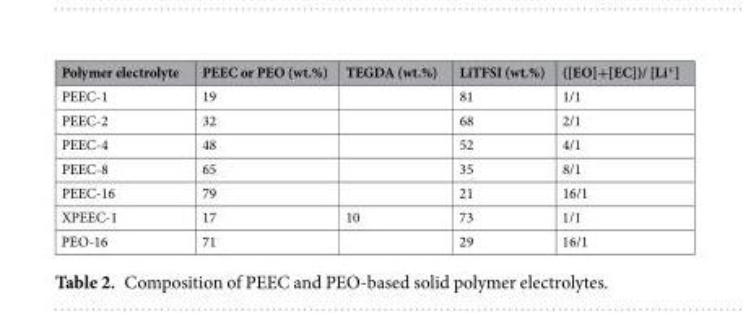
<table><thead><tr><td>Polymer electrolyte</td><td>PEEC or PEO (wt.%)</td><td>TEGDA (wt.%)</td><td>LiTFSI (wt.%)</td><td>([EO]+[EC])/ [Li<sup>+</sup>]</td></tr></thead><tbody><tr><td>PEEC-1</td><td>19</td><td></td><td>81</td><td>1/1</td></tr><tr><td>PEEC-2</td><td>32</td><td></td><td>68</td><td>2/1</td></tr><tr><td>PEEC-4</td><td>48</td><td></td><td>52</td><td>4/1</td></tr><tr><td>PEEC-8</td><td>65</td><td></td><td>35</td><td>8/1</td></tr><tr><td>PEEC-16</td><td>79</td><td></td><td>21</td><td>16/1</td></tr><tr><td>XPEEC-1</td><td>17</td><td>10</td><td>73</td><td>1/1</td></tr><tr><td>PEO-16</td><td>71</td><td></td><td>29</td><td>16/1</td></tr></tbody></table>